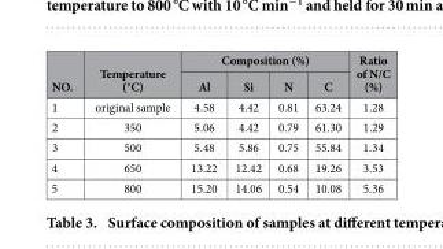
<table><thead><tr><td rowspan="2">NO.</td><td rowspan="2">Temperature (°C)</td><td colspan="4">Composition (%)</td><td rowspan="2">Ratio of N/C (%)</td></tr><tr><td>Al</td><td>Si</td><td>N</td><td>C</td></tr></thead><tbody><tr><td>1</td><td>original sample</td><td>4.58</td><td>4.42</td><td>0.81</td><td>63.24</td><td>1.28</td></tr><tr><td>2</td><td>350</td><td>5.06</td><td>4.42</td><td>0.79</td><td>61.30</td><td>1.29</td></tr><tr><td>3</td><td>500</td><td>5.48</td><td>5.86</td><td>0.75</td><td>55.84</td><td>1.34</td></tr><tr><td>4</td><td>650</td><td>13.22</td><td>12.42</td><td>0.68</td><td>19.26</td><td>3.53</td></tr><tr><td>5</td><td>800</td><td>15.20</td><td>14.06</td><td>0.54</td><td>10.08</td><td>5.36</td></tr></tbody></table>